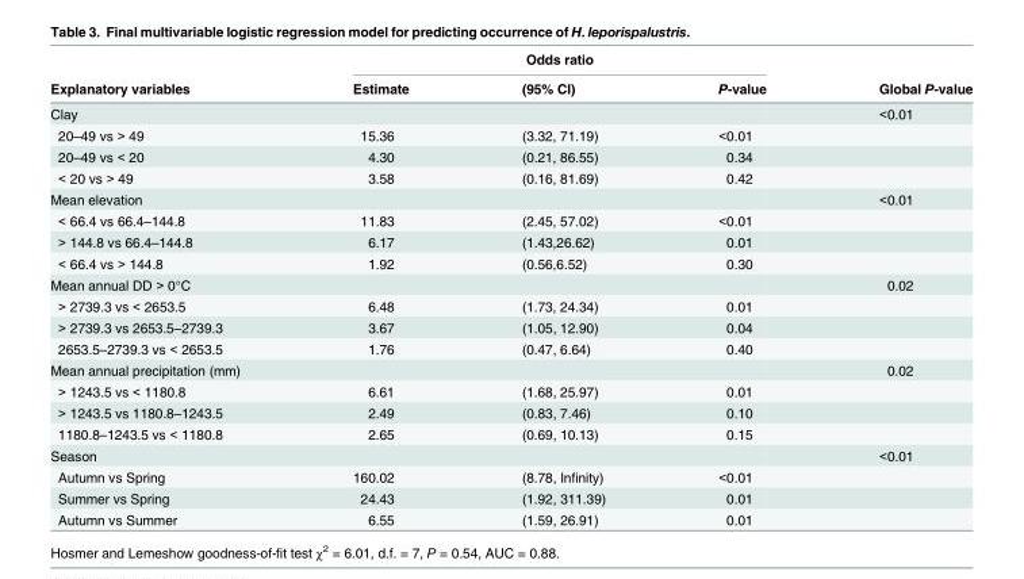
<table><thead><tr><td rowspan="2">Explanatory variables</td><td rowspan="2">Estimate</td><td rowspan="2">Odds ratio (95% CI)</td><td rowspan="2">P-value</td><td rowspan="2">Global P-value</td></tr><tr></tr></thead><tbody><tr><td>Clay</td><td></td><td></td><td></td><td>&lt;0.01</td></tr><tr><td>20–49 vs &gt; 49</td><td>15.36</td><td>(3.32, 71.19)</td><td>&lt;0.01</td><td></td></tr><tr><td>20–49 vs &lt; 20</td><td>4.30</td><td>(0.21, 86.55)</td><td>0.34</td><td></td></tr><tr><td>&lt; 20 vs &gt; 49</td><td>3.58</td><td>(0.16, 81.69)</td><td>0.42</td><td></td></tr><tr><td>Mean elevation</td><td></td><td></td><td></td><td>&lt;0.01</td></tr><tr><td>&lt; 66.4 vs 66.4–144.8</td><td>11.83</td><td>(2.45, 57.02)</td><td>&lt;0.01</td><td></td></tr><tr><td>&gt; 144.8 vs 66.4–144.8</td><td>6.17</td><td>(1.43,26.62)</td><td>0.01</td><td></td></tr><tr><td>&lt; 66.4 vs &gt; 144.8</td><td>1.92</td><td>(0.56,6.52)</td><td>0.30</td><td></td></tr><tr><td>Mean annual DD &gt; 0°C</td><td></td><td></td><td></td><td>0.02</td></tr><tr><td>&gt; 2739.3 vs &lt; 2653.5</td><td>6.48</td><td>(1.73, 24.34)</td><td>0.01</td><td></td></tr><tr><td>&gt; 2739.3 vs 2653.5–2739.3</td><td>3.67</td><td>(1.05, 12.90)</td><td>0.04</td><td></td></tr><tr><td>2653.5–2739.3 vs &lt; 2653.5</td><td>1.76</td><td>(0.47, 6.64)</td><td>0.40</td><td></td></tr><tr><td>Mean annual precipitation (mm)</td><td></td><td></td><td></td><td>0.02</td></tr><tr><td>&gt; 1243.5 vs &lt; 1180.8</td><td>6.61</td><td>(1.68, 25.97)</td><td>0.01</td><td></td></tr><tr><td>&gt; 1243.5 vs 1180.8–1243.5</td><td>2.49</td><td>(0.83, 7.46)</td><td>0.10</td><td></td></tr><tr><td>1180.8–1243.5 vs &lt; 1180.8</td><td>2.65</td><td>(0.69, 10.13)</td><td>0.15</td><td></td></tr><tr><td>Season</td><td></td><td></td><td></td><td>&lt;0.01</td></tr><tr><td>Autumn vs Spring</td><td>160.02</td><td>(8.78, Infinity)</td><td>&lt;0.01</td><td></td></tr><tr><td>Summer vs Spring</td><td>24.43</td><td>(1.92, 311.39)</td><td>0.01</td><td></td></tr><tr><td>Autumn vs Summer</td><td>6.55</td><td>(1.59, 26.91)</td><td>0.01</td><td></td></tr></tbody></table>